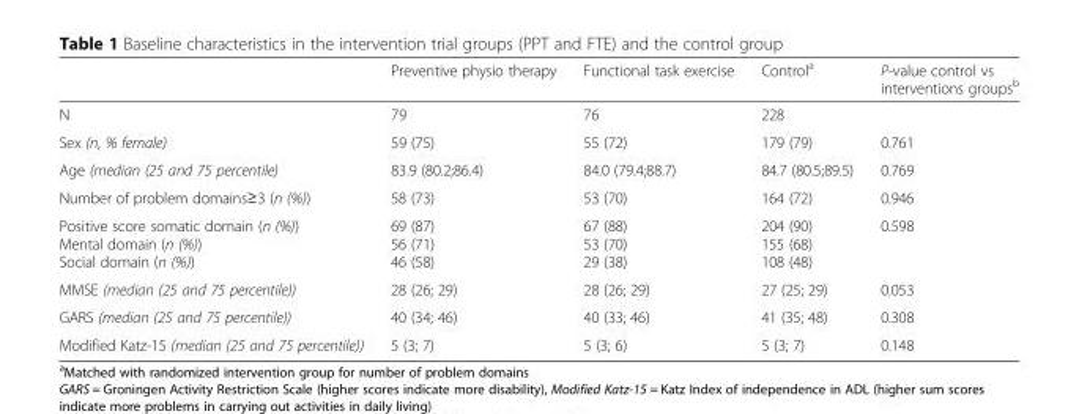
<table><thead><tr><td></td><td>Preventive physio therapy</td><td>Functional task exercise</td><td>Control<sup>a</sup></td><td>P-value control vs interventions groups<sup>b</sup></td></tr></thead><tbody><tr><td>N</td><td>79</td><td>76</td><td>228</td><td></td></tr><tr><td>Sex (n, % female)</td><td>59 (75)</td><td>55 (72)</td><td>179 (79)</td><td>0.761</td></tr><tr><td>Age (median (25 and 75 percentile)</td><td>83.9 (80.2;86.4)</td><td>84.0 (79.4;88.7)</td><td>84.7 (80.5;89.5)</td><td>0.769</td></tr><tr><td>Number of problem domains≥3 (n (%))</td><td>58 (73)</td><td>53 (70)</td><td>164 (72)</td><td>0.946</td></tr><tr><td>Positive score somatic domain (n (%)) Mental domain (n (%)) Social domain (n (%))</td><td>69 (87) 56 (71) 46 (58)</td><td>67 (88) 53 (70) 29 (38)</td><td>204 (90) 155 (68) 108 (48)</td><td>0.598</td></tr><tr><td>MMSE (median (25 and 75 percentile))</td><td>28 (26; 29)</td><td>28 (26; 29)</td><td>27 (25; 29)</td><td>0.053</td></tr><tr><td>GARS (median (25 and 75 percentile))</td><td>40 (34; 46)</td><td>40 (33; 46)</td><td>41 (35; 48)</td><td>0.308</td></tr><tr><td>Modified Katz-15 (median (25 and 75 percentile))</td><td>5 (3; 7)</td><td>5 (3; 6)</td><td>5 (3; 7)</td><td>0.148</td></tr></tbody></table>